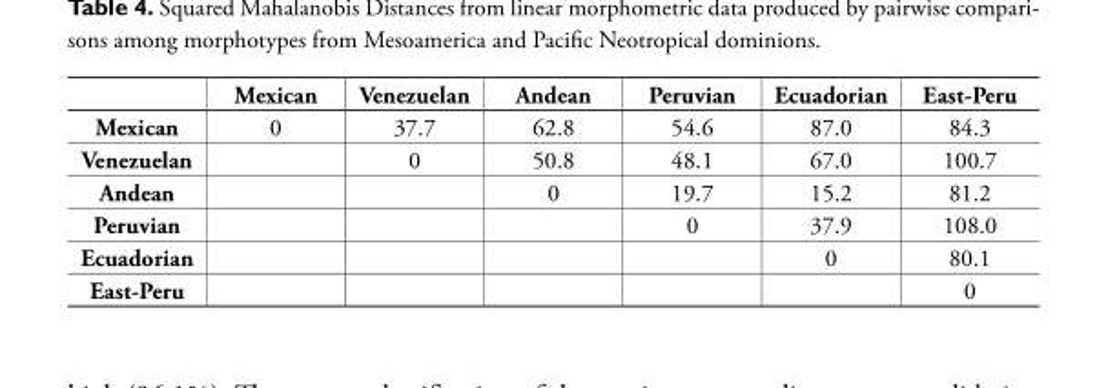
<table><thead><tr><td></td><td>Mexican</td><td>Venezuelan</td><td>Andean</td><td>Peruvian</td><td>Ecuadorian</td><td>East-Peru</td></tr></thead><tbody><tr><td>Mexican</td><td>0</td><td>37.7</td><td>62.8</td><td>54.6</td><td>87.0</td><td>84.3</td></tr><tr><td>Venezuelan</td><td></td><td>0</td><td>50.8</td><td>48.1</td><td>67.0</td><td>100.7</td></tr><tr><td>Andean</td><td></td><td></td><td>0</td><td>19.7</td><td>15.2</td><td>81.2</td></tr><tr><td>Peruvian</td><td></td><td></td><td></td><td>0</td><td>37.9</td><td>108.0</td></tr><tr><td>Ecuadorian</td><td></td><td></td><td></td><td></td><td>0</td><td>80.1</td></tr><tr><td>East-Peru</td><td></td><td></td><td></td><td></td><td></td><td>0</td></tr></tbody></table>